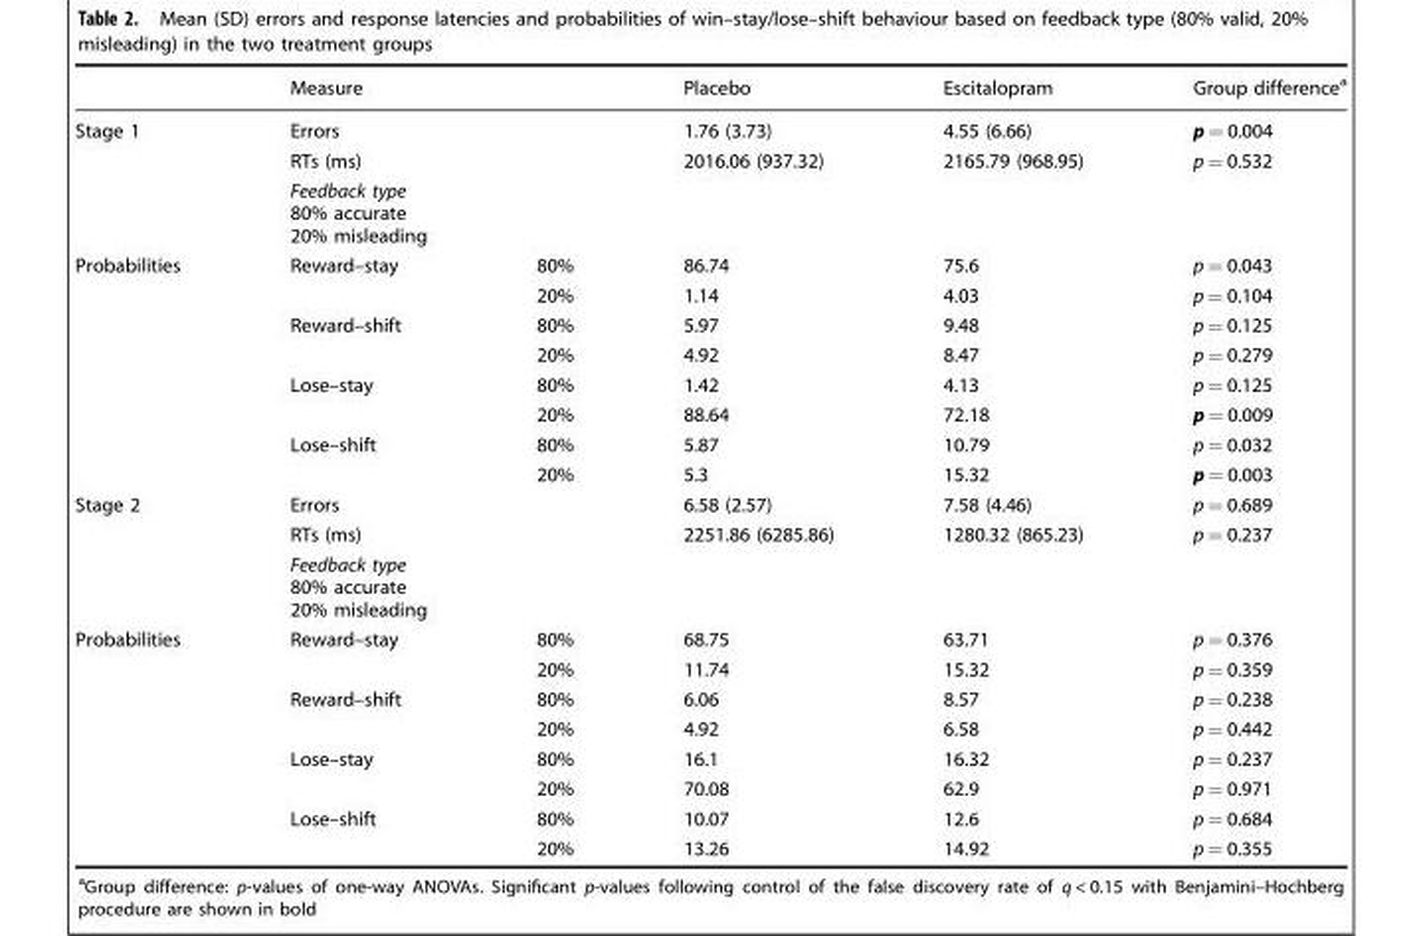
<table><thead><tr><td></td><td>Measure</td><td></td><td>Placebo</td><td>Escitalopram</td><td>Group difference<sup>a</sup></td></tr></thead><tbody><tr><td rowspan="3">Stage 1</td><td>Errors</td><td></td><td>1.76 (3.73)</td><td>4.55 (6.66)</td><td>p = 0.004</td></tr><tr><td>RTs (ms)</td><td></td><td>2016.06 (937.32)</td><td>2165.79 (968.95)</td><td>p = 0.532</td></tr><tr><td>Feedback type 80% accurate 20% misleading</td><td></td><td></td><td></td><td></td></tr><tr><td rowspan="8">Probabilities</td><td>Reward–stay</td><td>80%</td><td>86.74</td><td>75.6</td><td>p = 0.043</td></tr><tr><td></td><td>20%</td><td>1.14</td><td>4.03</td><td>p = 0.104</td></tr><tr><td>Reward–shift</td><td>80%</td><td>5.97</td><td>9.48</td><td>p = 0.125</td></tr><tr><td></td><td>20%</td><td>4.92</td><td>8.47</td><td>p = 0.279</td></tr><tr><td>Lose–stay</td><td>80%</td><td>1.42</td><td>4.13</td><td>p = 0.125</td></tr><tr><td></td><td>20%</td><td>88.64</td><td>72.18</td><td>p = 0.009</td></tr><tr><td>Lose–shift</td><td>80%</td><td>5.87</td><td>10.79</td><td>p = 0.032</td></tr><tr><td></td><td>20%</td><td>5.3</td><td>15.32</td><td>p = 0.003</td></tr><tr><td rowspan="3">Stage 2</td><td>Errors</td><td></td><td>6.58 (2.57)</td><td>7.58 (4.46)</td><td>p = 0.689</td></tr><tr><td>RTs (ms)</td><td></td><td>2251.86 (6285.86)</td><td>1280.32 (865.23)</td><td>p = 0.237</td></tr><tr><td>Feedback type 80% accurate 20% misleading</td><td></td><td></td><td></td><td></td></tr><tr><td rowspan="8">Probabilities</td><td>Reward–stay</td><td>80%</td><td>68.75</td><td>63.71</td><td>p = 0.376</td></tr><tr><td></td><td>20%</td><td>11.74</td><td>15.32</td><td>p = 0.359</td></tr><tr><td>Reward–shift</td><td>80%</td><td>6.06</td><td>8.57</td><td>p = 0.238</td></tr><tr><td></td><td>20%</td><td>4.92</td><td>6.58</td><td>p = 0.442</td></tr><tr><td>Lose–stay</td><td>80%</td><td>16.1</td><td>16.32</td><td>p = 0.237</td></tr><tr><td></td><td>20%</td><td>70.08</td><td>62.9</td><td>p = 0.971</td></tr><tr><td>Lose–shift</td><td>80%</td><td>10.07</td><td>12.6</td><td>p = 0.684</td></tr><tr><td></td><td>20%</td><td>13.26</td><td>14.92</td><td>p = 0.355</td></tr></tbody></table>